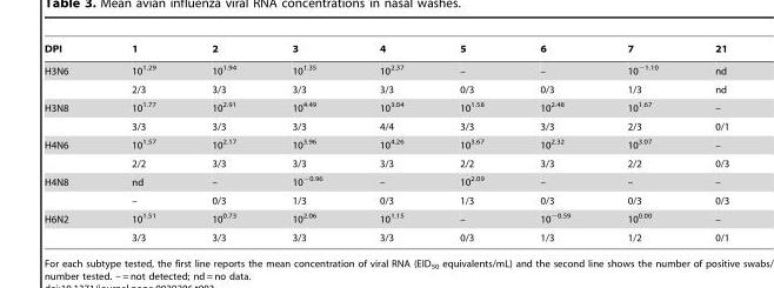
<table><thead><tr><td>DPI</td><td>1</td><td>2</td><td>3</td><td>4</td><td>5</td><td>6</td><td>7</td><td>21</td></tr></thead><tbody><tr><td rowspan="2">H3N6</td><td>10<sup>1.29</sup></td><td>10<sup>1.94</sup></td><td>10<sup>1.35</sup></td><td>10<sup>2.37</sup></td><td>–</td><td>–</td><td>10<sup>−1.10</sup></td><td>nd</td></tr><tr><td>2/3</td><td>3/3</td><td>3/3</td><td>3/3</td><td>0/3</td><td>0/3</td><td>1/3</td><td>nd</td></tr><tr><td rowspan="2">H3N8</td><td>10<sup>1.77</sup></td><td>10<sup>2.91</sup></td><td>10<sup>4.49</sup></td><td>10<sup>3.04</sup></td><td>10<sup>1.58</sup></td><td>10<sup>2.48</sup></td><td>10<sup>1.67</sup></td><td>–</td></tr><tr><td>3/3</td><td>3/3</td><td>3/3</td><td>4/4</td><td>3/3</td><td>3/3</td><td>2/3</td><td>0/1</td></tr><tr><td rowspan="2">H4N6</td><td>10<sup>1.57</sup></td><td>10<sup>2.17</sup></td><td>10<sup>3.96</sup></td><td>10<sup>4.26</sup></td><td>10<sup>3.67</sup></td><td>10<sup>2.32</sup></td><td>10<sup>3.07</sup></td><td>–</td></tr><tr><td>2/2</td><td>3/3</td><td>3/3</td><td>3/3</td><td>2/2</td><td>3/3</td><td>2/2</td><td>0/3</td></tr><tr><td rowspan="2">H4N8</td><td>nd</td><td>–</td><td>10<sup>−0.96</sup></td><td>–</td><td>10<sup>2.09</sup></td><td>–</td><td>–</td><td>–</td></tr><tr><td>–</td><td>0/3</td><td>1/3</td><td>0/3</td><td>1/3</td><td>0/3</td><td>0/3</td><td>0/3</td></tr><tr><td rowspan="2">H6N2</td><td>10<sup>1.51</sup></td><td>10<sup>0.73</sup></td><td>10<sup>2.06</sup></td><td>10<sup>1.15</sup></td><td>–</td><td>10<sup>−0.59</sup></td><td>10<sup>0.00</sup></td><td>–</td></tr><tr><td>3/3</td><td>3/3</td><td>3/3</td><td>3/3</td><td>0/3</td><td>1/3</td><td>1/2</td><td>0/1</td></tr></tbody></table>